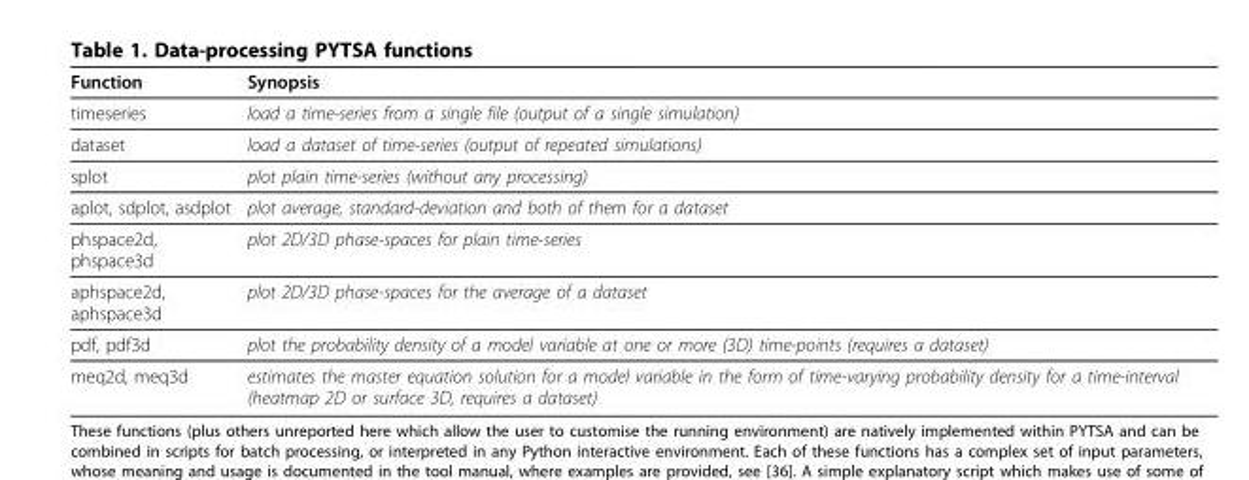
<table><thead><tr><td>Function</td><td>Synopsis</td></tr></thead><tbody><tr><td>timeseries</td><td>load a time-series from a single file (output of a single simulation)</td></tr><tr><td>dataset</td><td>load a dataset of time-series (output of repeated simulations)</td></tr><tr><td>splot</td><td>plot plain time-series (without any processing)</td></tr><tr><td>aplot, sdplot, asdplot</td><td>plot average, standard-deviation and both of them for a dataset</td></tr><tr><td>phspace2d, phspace3d</td><td>plot 2D/3D phase-spaces for plain time-series</td></tr><tr><td>aphspace2d, aphspace3d</td><td>plot 2D/3D phase-spaces for the average of a dataset</td></tr><tr><td>pdf, pdf3d</td><td>plot the probability density of a model variable at one or more (3D) time-points (requires a dataset)</td></tr><tr><td>meq2d, meq3d</td><td>estimates the master equation solution for a model variable in the form of time-varying probability density for a time-interval (heatmap 2D or surface 3D, requires a dataset)</td></tr></tbody></table>